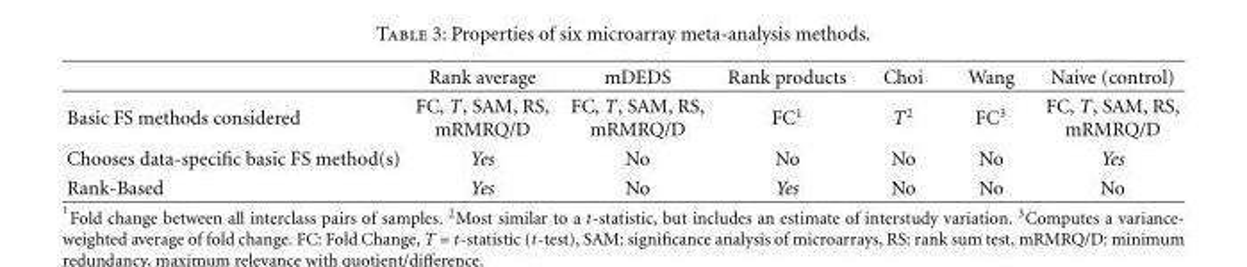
<table><thead><tr><td></td><td>Rank average</td><td>mDEDS</td><td>Rank products</td><td>Choi</td><td>Wang</td><td>Naive (control)</td></tr></thead><tbody><tr><td>Basic FS methods considered</td><td>FC, T, SAM, RS, mRMRQ/D</td><td>FC, T, SAM, RS, mRMRQ/D</td><td>FC<sup>1</sup></td><td>T<sup>2</sup></td><td>FC<sup>3</sup></td><td>FC, T, SAM, RS, mRMRQ/D</td></tr><tr><td>Chooses data-specific basic FS method(s)</td><td>Yes</td><td>No</td><td>No</td><td>No</td><td>No</td><td>Yes</td></tr><tr><td>Rank-Based</td><td>Yes</td><td>No</td><td>Yes</td><td>No</td><td>No</td><td>No</td></tr></tbody></table>